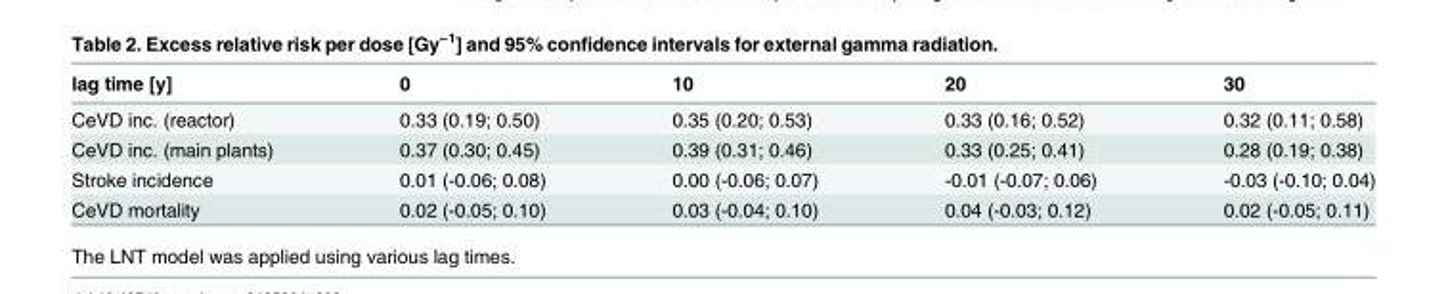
<table><thead><tr><td>lag time [y]</td><td>0</td><td>10</td><td>20</td><td>30</td></tr></thead><tbody><tr><td>CeVD inc. (reactor)</td><td>0.33 (0.19; 0.50)</td><td>0.35 (0.20; 0.53)</td><td>0.33 (0.16; 0.52)</td><td>0.32 (0.11; 0.58)</td></tr><tr><td>CeVD inc. (main plants)</td><td>0.37 (0.30; 0.45)</td><td>0.39 (0.31; 0.46)</td><td>0.33 (0.25; 0.41)</td><td>0.28 (0.19; 0.38)</td></tr><tr><td>Stroke incidence</td><td>0.01 (-0.06; 0.08)</td><td>0.00 (-0.06; 0.07)</td><td>-0.01 (-0.07; 0.06)</td><td>-0.03 (-0.10; 0.04)</td></tr><tr><td>CeVD mortality</td><td>0.02 (-0.05; 0.10)</td><td>0.03 (-0.04; 0.10)</td><td>0.04 (-0.03; 0.12)</td><td>0.02 (-0.05; 0.11)</td></tr></tbody></table>